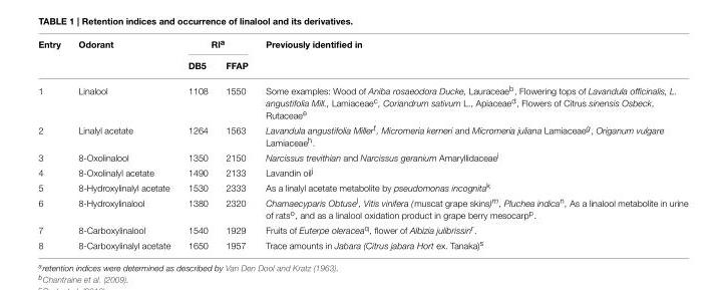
<table><thead><tr><td rowspan="2">Entry</td><td rowspan="2">Odorant</td><td colspan="2">RI<sup>a</sup></td><td rowspan="2">Previously identified in</td></tr><tr><td>DB5</td><td>FFAP</td></tr></thead><tbody><tr><td>1</td><td>Linalool</td><td>1108</td><td>1550</td><td>Some examples: Wood of Aniba rosaeodora Ducke, Lauraceae<sup>b</sup>, Flowering tops of Lavandula officinalis, L. angustifolia Mill., Lamiaceae<sup>c</sup>, Coriandrum sativum L., Apiaceae<sup>d</sup>, Flowers of Citrus sinensis Osbeck, Rutaceae<sup>e</sup></td></tr><tr><td>2</td><td>Linalyl acetate</td><td>1264</td><td>1563</td><td>Lavandula angustifolia Miller<sup>f</sup>, Micromeria kerneri and Micromeria juliana Lamiaceae<sup>g</sup>, Origanum vulgare Lamiaceae<sup>h</sup>.</td></tr><tr><td>3</td><td>8-Oxolinalool</td><td>1350</td><td>2150</td><td>Narcissus trevithian and Narcissus geranium Amaryllidaceae<sup>i</sup></td></tr><tr><td>4</td><td>8-Oxolinalyl acetate</td><td>1490</td><td>2133</td><td>Lavandin oil<sup>j</sup></td></tr><tr><td>5</td><td>8-Hydroxylinalyl acetate</td><td>1530</td><td>2333</td><td>As a linalyl acetate metabolite by pseudomonas incognita<sup>k</sup></td></tr><tr><td>6</td><td>8-Hydroxylinalool</td><td>1380</td><td>2320</td><td>Chamaecyparis Obtuse<sup>l</sup>, Vitis vinifera (muscat grape skins)<sup>m</sup>, Pluchea indica<sup>n</sup>, As a linalool metabolite in urine of rats<sup>o</sup>, and as a linalool oxidation product in grape berry mesocarp<sup>p</sup>.</td></tr><tr><td>7</td><td>8-Carboxylinalool</td><td>1540</td><td>1929</td><td>Fruits of Euterpe oleracea<sup>q</sup>, flower of Albizia julibrissin<sup>r</sup>.</td></tr><tr><td>8</td><td>8-Carboxylinalyl acetate</td><td>1650</td><td>1957</td><td>Trace amounts in Jabara (Citrus jabara Hort ex. Tanaka)<sup>s</sup></td></tr></tbody></table>